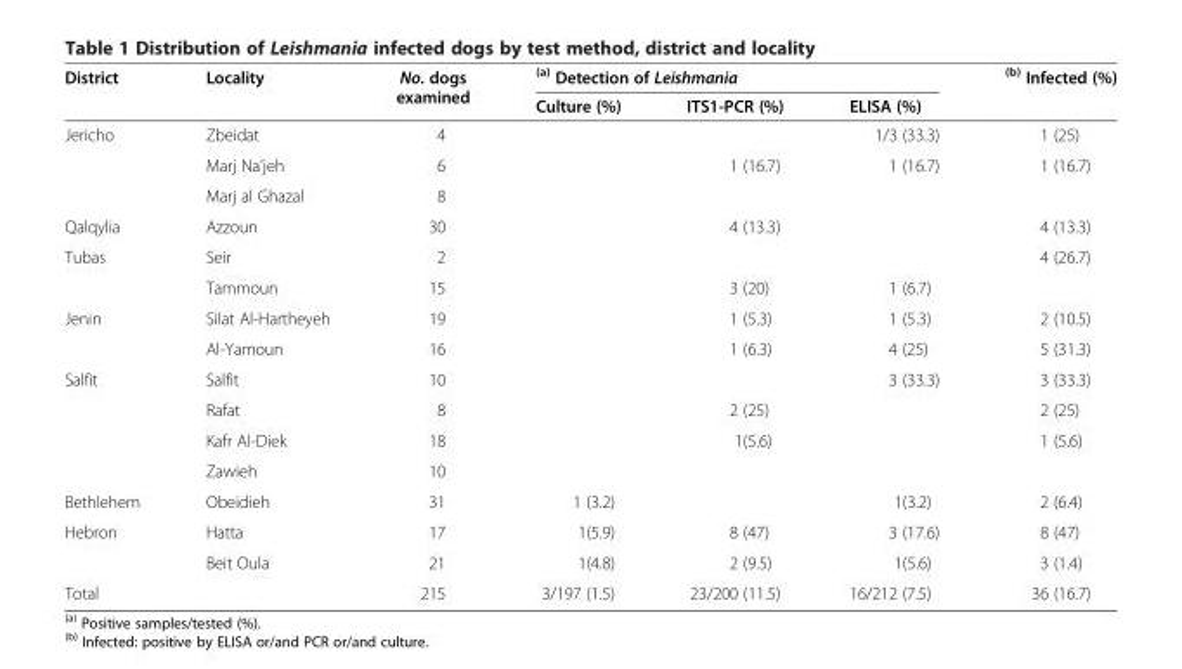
<table><thead><tr><td rowspan="2">District</td><td rowspan="2">Locality</td><td rowspan="2">No. dogs examined</td><td colspan="3"><sup>(a)</sup> Detection of Leishmania</td><td rowspan="2"><sup>(b)</sup> Infected (%)</td></tr><tr><td>Culture (%)</td><td>ITS1-PCR (%)</td><td>ELISA (%)</td></tr></thead><tbody><tr><td rowspan="3">Jericho</td><td>Zbeidat</td><td>4</td><td></td><td></td><td>1/3 (33.3)</td><td>1 (25)</td></tr><tr><td>Marj Na’jeh</td><td>6</td><td></td><td>1 (16.7)</td><td>1 (16.7)</td><td>1 (16.7)</td></tr><tr><td>Marj al Ghazal</td><td>8</td><td></td><td></td><td></td><td></td></tr><tr><td>Qalqylia</td><td>Azzoun</td><td>30</td><td></td><td>4 (13.3)</td><td></td><td>4 (13.3)</td></tr><tr><td rowspan="2">Tubas</td><td>Seir</td><td>2</td><td></td><td></td><td></td><td>4 (26.7)</td></tr><tr><td>Tammoun</td><td>15</td><td></td><td>3 (20)</td><td>1 (6.7)</td><td></td></tr><tr><td rowspan="2">Jenin</td><td>Silat Al-Hartheyeh</td><td>19</td><td></td><td>1 (5.3)</td><td>1 (5.3)</td><td>2 (10.5)</td></tr><tr><td>Al-Yamoun</td><td>16</td><td></td><td>1 (6.3)</td><td>4 (25)</td><td>5 (31.3)</td></tr><tr><td rowspan="4">Salfit</td><td>Salfit</td><td>10</td><td></td><td></td><td>3 (33.3)</td><td>3 (33.3)</td></tr><tr><td>Rafat</td><td>8</td><td></td><td>2 (25)</td><td></td><td>2 (25)</td></tr><tr><td>Kafr Al-Diek</td><td>18</td><td></td><td>1(5.6)</td><td></td><td>1 (5.6)</td></tr><tr><td>Zawieh</td><td>10</td><td></td><td></td><td></td><td></td></tr><tr><td>Bethlehem</td><td>Obeidieh</td><td>31</td><td>1 (3.2)</td><td></td><td>1(3.2)</td><td>2 (6.4)</td></tr><tr><td rowspan="2">Hebron</td><td>Hatta</td><td>17</td><td>1(5.9)</td><td>8 (47)</td><td>3 (17.6)</td><td>8 (47)</td></tr><tr><td>Beit Oula</td><td>21</td><td>1(4.8)</td><td>2 (9.5)</td><td>1(5.6)</td><td>3 (1.4)</td></tr><tr><td>Total</td><td></td><td>215</td><td>3/197 (1.5)</td><td>23/200 (11.5)</td><td>16/212 (7.5)</td><td>36 (16.7)</td></tr></tbody></table>